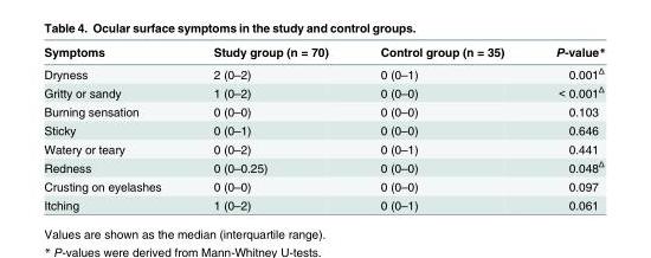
<table><thead><tr><td>Symptoms</td><td>Study group (n = 70)</td><td>Control group (n = 35)</td><td>P-value*</td></tr></thead><tbody><tr><td>Dryness</td><td>2 (0–2)</td><td>0 (0–1)</td><td>0.001<sup>Δ</sup></td></tr><tr><td>Gritty or sandy</td><td>1 (0–2)</td><td>0 (0–0)</td><td>&lt; 0.001<sup>Δ</sup></td></tr><tr><td>Burning sensation</td><td>0 (0–0)</td><td>0 (0–0)</td><td>0.103</td></tr><tr><td>Sticky</td><td>0 (0–1)</td><td>0 (0–0)</td><td>0.646</td></tr><tr><td>Watery or teary</td><td>0 (0–2)</td><td>0 (0–1)</td><td>0.441</td></tr><tr><td>Redness</td><td>0 (0–0.25)</td><td>0 (0–0)</td><td>0.048<sup>Δ</sup></td></tr><tr><td>Crusting on eyelashes</td><td>0 (0–0)</td><td>0 (0–0)</td><td>0.097</td></tr><tr><td>Itching</td><td>1 (0–2)</td><td>0 (0–1)</td><td>0.061</td></tr></tbody></table>